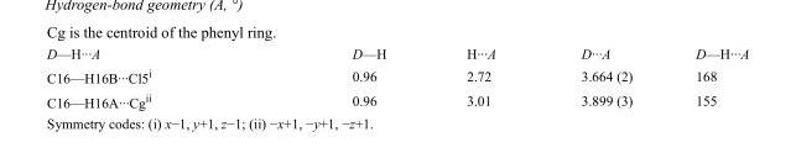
<table><tbody><tr><td>D—H···A</td><td>D—H</td><td>H···A</td><td>D···A</td><td>D—H···A</td></tr><tr><td>C16—H16B···Cl5<sup>i</sup></td><td>0.96</td><td>2.72</td><td>3.664 (2)</td><td>168</td></tr><tr><td>C16—H16A···Cg<sup>ii</sup></td><td>0.96</td><td>3.01</td><td>3.899 (3)</td><td>155</td></tr></tbody></table>